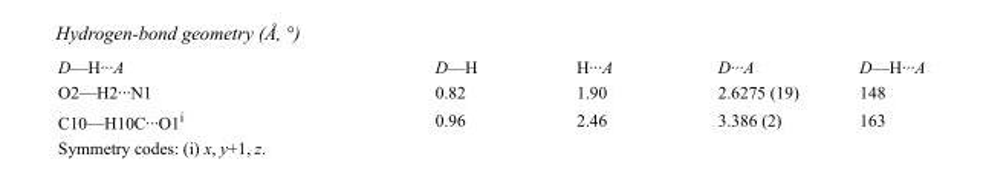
<table><tbody><tr><td>D—H···A</td><td>D—H</td><td>H···A</td><td>D···A</td><td>D—H···A</td></tr><tr><td>O2—H2···N1</td><td>0.82</td><td>1.90</td><td>2.6275 (19)</td><td>148</td></tr><tr><td>C10—H10C···O1<sup>i</sup></td><td>0.96</td><td>2.46</td><td>3.386 (2)</td><td>163</td></tr></tbody></table>